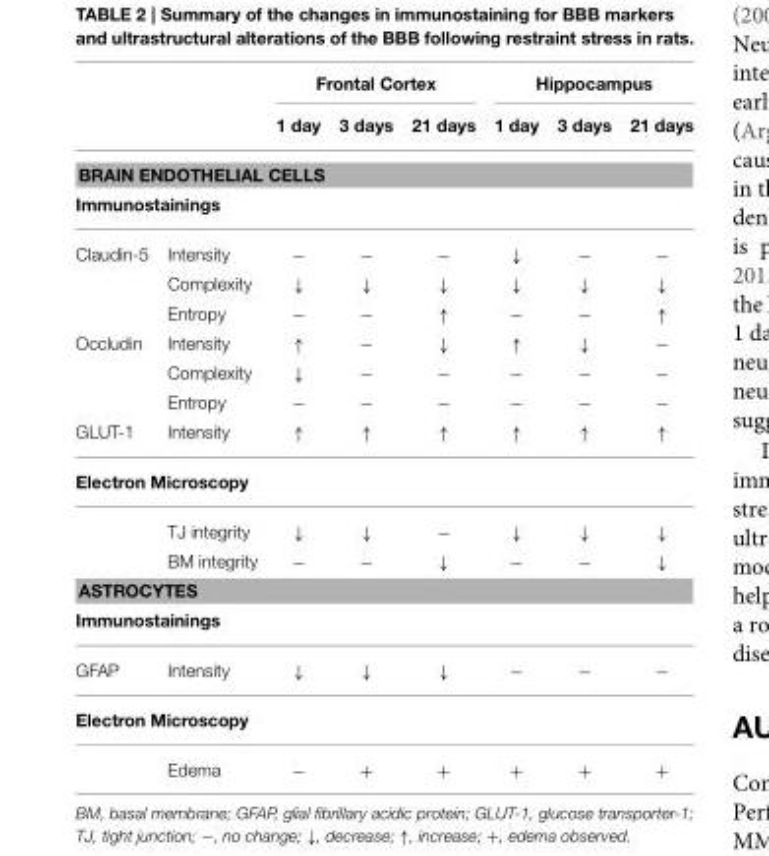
<table><thead><tr><td rowspan="2"></td><td rowspan="2"></td><td colspan="3">Frontal Cortex</td><td colspan="3">Hippocampus</td></tr><tr><td>1 day</td><td>3 days</td><td>21 days</td><td>1 day</td><td>3 days</td><td>21 days</td></tr></thead><tbody><tr><td colspan="8">BRAIN ENDOTHELIAL CELLS</td></tr><tr><td colspan="8">Immunostainings</td></tr><tr><td rowspan="3">Claudin-5</td><td>Intensity</td><td>−</td><td>−</td><td>−</td><td>↓</td><td>−</td><td>−</td></tr><tr><td>Complexity</td><td>↓</td><td>↓</td><td>↓</td><td>↓</td><td>↓</td><td>↓</td></tr><tr><td>Entropy</td><td>−</td><td>−</td><td>↑</td><td>−</td><td>−</td><td>↑</td></tr><tr><td rowspan="3">Occludin</td><td>Intensity</td><td>↑</td><td>−</td><td>↓</td><td>↑</td><td>↓</td><td>−</td></tr><tr><td>Complexity</td><td>↓</td><td>−</td><td>−</td><td>−</td><td>−</td><td>−</td></tr><tr><td>Entropy</td><td>−</td><td>−</td><td>−</td><td>−</td><td>−</td><td>−</td></tr><tr><td>GLUT-1</td><td>Intensity</td><td>↑</td><td>↑</td><td>↑</td><td>↑</td><td>↑</td><td>↑</td></tr><tr><td colspan="8">Electron Microscopy</td></tr><tr><td></td><td>TJ integrity</td><td>↓</td><td>↓</td><td>−</td><td>↓</td><td>↓</td><td>↓</td></tr><tr><td></td><td>BM integrity</td><td>−</td><td>−</td><td>↓</td><td>−</td><td>−</td><td>↓</td></tr><tr><td colspan="8">ASTROCYTES</td></tr><tr><td colspan="8">Immunostainings</td></tr><tr><td>GFAP</td><td>Intensity</td><td>↓</td><td>↓</td><td>↓</td><td>−</td><td>−</td><td>−</td></tr><tr><td colspan="8">Electron Microscopy</td></tr><tr><td></td><td>Edema</td><td>−</td><td>+</td><td>+</td><td>+</td><td>+</td><td>+</td></tr></tbody></table>